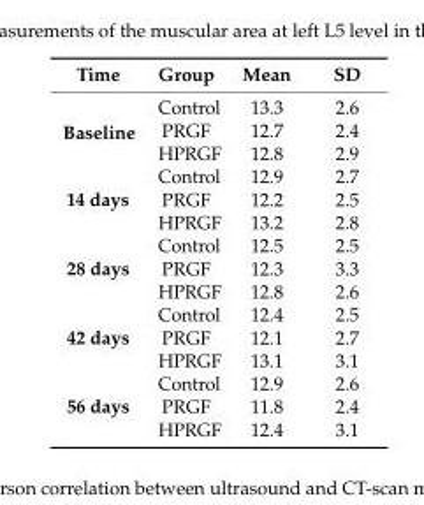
<table><thead><tr><td>Time</td><td>Group</td><td>Mean</td><td>SD</td></tr></thead><tbody><tr><td rowspan="3">Baseline</td><td>Control</td><td>13.3</td><td>2.6</td></tr><tr><td>PRGF</td><td>12.7</td><td>2.4</td></tr><tr><td>HPRGF</td><td>12.8</td><td>2.9</td></tr><tr><td rowspan="3">14 days</td><td>Control</td><td>12.9</td><td>2.7</td></tr><tr><td>PRGF</td><td>12.2</td><td>2.5</td></tr><tr><td>HPRGF</td><td>13.2</td><td>2.8</td></tr><tr><td rowspan="3">28 days</td><td>Control</td><td>12.5</td><td>2.5</td></tr><tr><td>PRGF</td><td>12.3</td><td>3.3</td></tr><tr><td>HPRGF</td><td>12.8</td><td>2.6</td></tr><tr><td rowspan="3">42 days</td><td>Control</td><td>12.4</td><td>2.5</td></tr><tr><td>PRGF</td><td>12.1</td><td>2.7</td></tr><tr><td>HPRGF</td><td>13.1</td><td>3.1</td></tr><tr><td rowspan="3">56 days</td><td>Control</td><td>12.9</td><td>2.6</td></tr><tr><td>PRGF</td><td>11.8</td><td>2.4</td></tr><tr><td>HPRGF</td><td>12.4</td><td>3.1</td></tr></tbody></table>